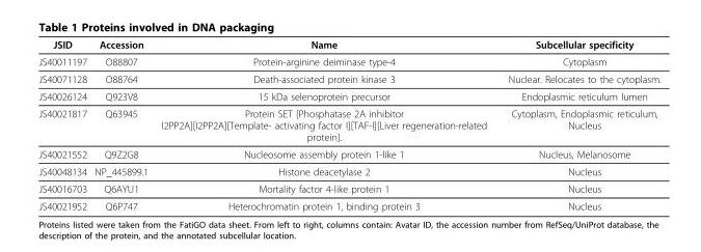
<table><thead><tr><td>JSID</td><td>Accession</td><td>Name</td><td>Subcellular specificity</td></tr></thead><tbody><tr><td>JS40011197</td><td>O88807</td><td>Protein-arginine deiminase type-4</td><td>Cytoplasm</td></tr><tr><td>JS40071128</td><td>O88764</td><td>Death-associated protein kinase 3</td><td>Nuclear. Relocates to the cytoplasm.</td></tr><tr><td>JS40026124</td><td>Q923V8</td><td>15 kDa selenoprotein precursor</td><td>Endoplasmic reticulum lumen</td></tr><tr><td>JS40021817</td><td>Q63945</td><td>Protein SET [Phosphatase 2A inhibitor I2PP2A][I2PP2A][Template- activating factor I][TAF-I][Liver regeneration-related protein].</td><td>Cytoplasm, Endoplasmic reticulum, Nucleus</td></tr><tr><td>JS40021552</td><td>Q9Z2G8</td><td>Nucleosome assembly protein 1-like 1</td><td>Nucleus, Melanosome</td></tr><tr><td>JS40048134</td><td>NP_445899.1</td><td>Histone deacetylase 2</td><td>Nucleus</td></tr><tr><td>JS40016703</td><td>Q6AYU1</td><td>Mortality factor 4-like protein 1</td><td>Nucleus</td></tr><tr><td>JS40021952</td><td>Q6P747</td><td>Heterochromatin protein 1, binding protein 3</td><td>Nucleus</td></tr></tbody></table>